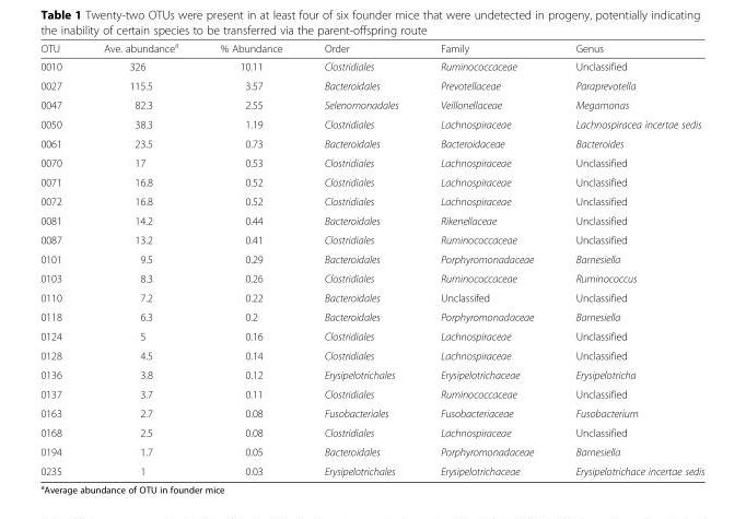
<table><thead><tr><td>OTU</td><td>Ave. abundance<sup>a</sup></td><td>% Abundance</td><td>Order</td><td>Family</td><td>Genus</td></tr></thead><tbody><tr><td>0010</td><td>326</td><td>10.11</td><td>Clostridiales</td><td>Ruminococcaceae</td><td>Unclassified</td></tr><tr><td>0027</td><td>115.5</td><td>3.57</td><td>Bacteroidales</td><td>Prevotellaceae</td><td>Paraprevotella</td></tr><tr><td>0047</td><td>82.3</td><td>2.55</td><td>Selenomonadales</td><td>Veillonellaceae</td><td>Megamonas</td></tr><tr><td>0050</td><td>38.3</td><td>1.19</td><td>Clostridiales</td><td>Lachnospiraceae</td><td>Lachnospiracea incertae sedis</td></tr><tr><td>0061</td><td>23.5</td><td>0.73</td><td>Bacteroidales</td><td>Bacteroidaceae</td><td>Bacteroides</td></tr><tr><td>0070</td><td>17</td><td>0.53</td><td>Clostridiales</td><td>Lachnospiraceae</td><td>Unclassified</td></tr><tr><td>0071</td><td>16.8</td><td>0.52</td><td>Clostridiales</td><td>Lachnospiraceae</td><td>Unclassified</td></tr><tr><td>0072</td><td>16.8</td><td>0.52</td><td>Clostridiales</td><td>Lachnospiraceae</td><td>Unclassified</td></tr><tr><td>0081</td><td>14.2</td><td>0.44</td><td>Bacteroidales</td><td>Rikenellaceae</td><td>Unclassified</td></tr><tr><td>0087</td><td>13.2</td><td>0.41</td><td>Clostridiales</td><td>Ruminococcaceae</td><td>Unclassified</td></tr><tr><td>0101</td><td>9.5</td><td>0.29</td><td>Bacteroidales</td><td>Porphyromonadaceae</td><td>Barnesiella</td></tr><tr><td>0103</td><td>8.3</td><td>0.26</td><td>Clostridiales</td><td>Ruminococcaceae</td><td>Ruminococcus</td></tr><tr><td>0110</td><td>7.2</td><td>0.22</td><td>Bacteroidales</td><td>Unclassifed</td><td>Unclassified</td></tr><tr><td>0118</td><td>6.3</td><td>0.2</td><td>Bacteroidales</td><td>Porphyromonadaceae</td><td>Barnesiella</td></tr><tr><td>0124</td><td>5</td><td>0.16</td><td>Clostridiales</td><td>Lachnospiraceae</td><td>Unclassified</td></tr><tr><td>0128</td><td>4.5</td><td>0.14</td><td>Clostridiales</td><td>Lachnospiraceae</td><td>Unclassified</td></tr><tr><td>0136</td><td>3.8</td><td>0.12</td><td>Erysipelotrichales</td><td>Erysipelotrichaceae</td><td>Erysipelotricha</td></tr><tr><td>0137</td><td>3.7</td><td>0.11</td><td>Clostridiales</td><td>Ruminococcaceae</td><td>Unclassified</td></tr><tr><td>0163</td><td>2.7</td><td>0.08</td><td>Fusobacteriales</td><td>Fusobacteriaceae</td><td>Fusobacterium</td></tr><tr><td>0168</td><td>2.5</td><td>0.08</td><td>Clostridiales</td><td>Lachnospiraceae</td><td>Unclassified</td></tr><tr><td>0194</td><td>1.7</td><td>0.05</td><td>Bacteroidales</td><td>Porphyromonadaceae</td><td>Barnesiella</td></tr><tr><td>0235</td><td>1</td><td>0.03</td><td>Erysipelotrichales</td><td>Erysipelotrichaceae</td><td>Erysipelotrichace incertae sedis</td></tr></tbody></table>